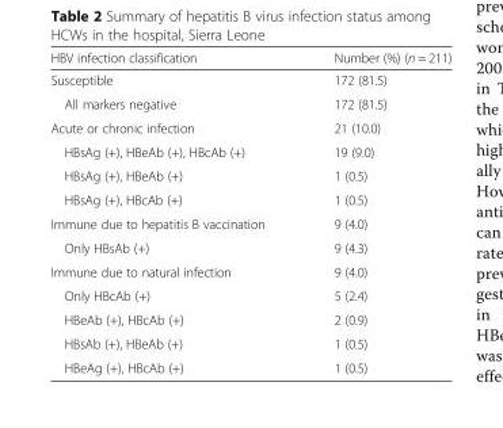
<table><thead><tr><td>HBV infection classification</td><td>Number (%) (n = 211)</td></tr></thead><tbody><tr><td>Susceptible</td><td>172 (81.5)</td></tr><tr><td>All markers negative</td><td>172 (81.5)</td></tr><tr><td>Acute or chronic infection</td><td>21 (10.0)</td></tr><tr><td>HBsAg (+), HBeAb (+), HBcAb (+)</td><td>19 (9.0)</td></tr><tr><td>HBsAg (+), HBeAb (+)</td><td>1 (0.5)</td></tr><tr><td>HBsAg (+), HBcAb (+)</td><td>1 (0.5)</td></tr><tr><td>Immune due to hepatitis B vaccination</td><td>9 (4.0)</td></tr><tr><td>Only HBsAb (+)</td><td>9 (4.3)</td></tr><tr><td>Immune due to natural infection</td><td>9 (4.0)</td></tr><tr><td>Only HBcAb (+)</td><td>5 (2.4)</td></tr><tr><td>HBeAb (+), HBcAb (+)</td><td>2 (0.9)</td></tr><tr><td>HBsAb (+), HBeAb (+)</td><td>1 (0.5)</td></tr><tr><td>HBeAg (+), HBcAb (+)</td><td>1 (0.5)</td></tr></tbody></table>